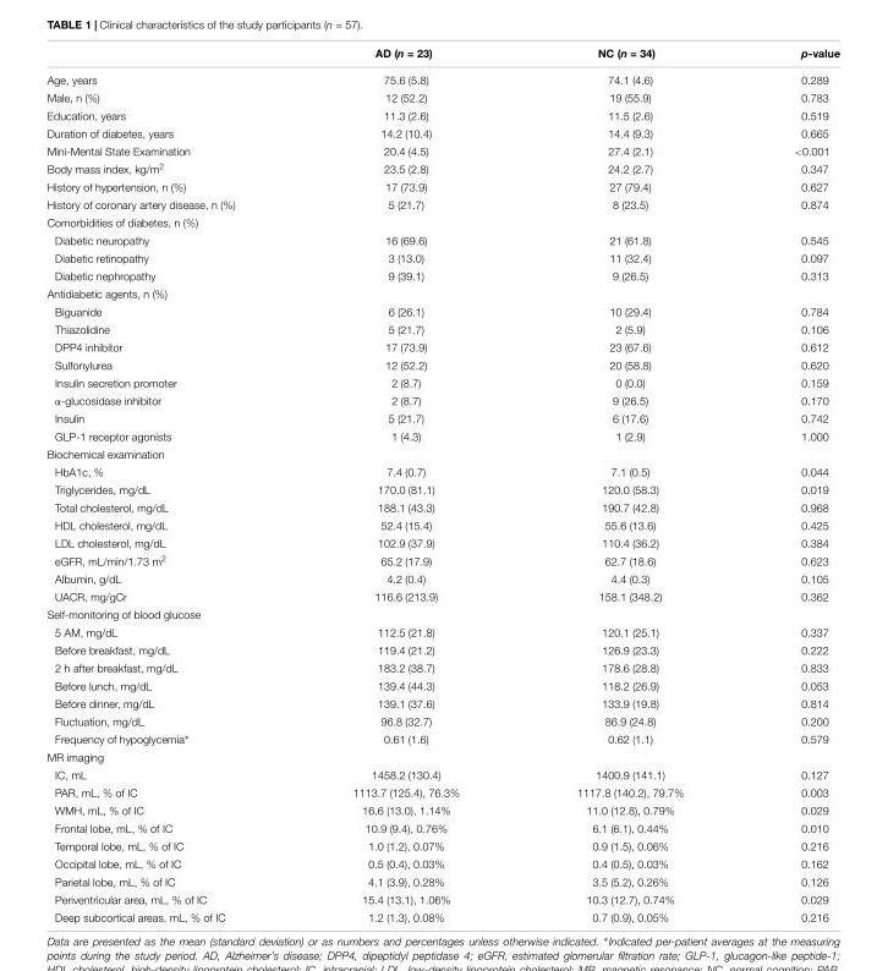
<table><thead><tr><td></td><td>AD (n = 23)</td><td>NC (n = 34)</td><td>p-value</td></tr></thead><tbody><tr><td>Age, years</td><td>75.6 (5.8)</td><td>74.1 (4.6)</td><td>0.289</td></tr><tr><td>Male, n (%)</td><td>12 (52.2)</td><td>19 (55.9)</td><td>0.783</td></tr><tr><td>Education, years</td><td>11.3 (2.6)</td><td>11.5 (2.6)</td><td>0.519</td></tr><tr><td>Duration of diabetes, years</td><td>14.2 (10.4)</td><td>14.4 (9.3)</td><td>0.665</td></tr><tr><td>Mini-Mental State Examination</td><td>20.4 (4.5)</td><td>27.4 (2.1)</td><td>&lt;0.001</td></tr><tr><td>Body mass index, kg/m<sup>2</sup></td><td>23.5 (2.8)</td><td>24.2 (2.7)</td><td>0.347</td></tr><tr><td>History of hypertension, n (%)</td><td>17 (73.9)</td><td>27 (79.4)</td><td>0.627</td></tr><tr><td>History of coronary artery disease, n (%)</td><td>5 (21.7)</td><td>8 (23.5)</td><td>0.874</td></tr><tr><td colspan="4">Comorbidities of diabetes, n (%)</td></tr><tr><td>Diabetic neuropathy</td><td>16 (69.6)</td><td>21 (61.8)</td><td>0.545</td></tr><tr><td>Diabetic retinopathy</td><td>3 (13.0)</td><td>11 (32.4)</td><td>0.097</td></tr><tr><td>Diabetic nephropathy</td><td>9 (39.1)</td><td>9 (26.5)</td><td>0.313</td></tr><tr><td colspan="4">Antidiabetic agents, n (%)</td></tr><tr><td>Biguanide</td><td>6 (26.1)</td><td>10 (29.4)</td><td>0.784</td></tr><tr><td>Thiazolidine</td><td>5 (21.7)</td><td>2 (5.9)</td><td>0.106</td></tr><tr><td>DPP4 inhibitor</td><td>17 (73.9)</td><td>23 (67.6)</td><td>0.612</td></tr><tr><td>Sulfonylurea</td><td>12 (52.2)</td><td>20 (58.8)</td><td>0.620</td></tr><tr><td>Insulin secretion promoter</td><td>2 (8.7)</td><td>0 (0.0)</td><td>0.159</td></tr><tr><td>α-glucosidase inhibitor</td><td>2 (8.7)</td><td>9 (26.5)</td><td>0.170</td></tr><tr><td>Insulin</td><td>5 (21.7)</td><td>6 (17.6)</td><td>0.742</td></tr><tr><td>GLP-1 receptor agonists</td><td>1 (4.3)</td><td>1 (2.9)</td><td>1.000</td></tr><tr><td colspan="4">Biochemical examination</td></tr><tr><td>HbA1c, %</td><td>7.4 (0.7)</td><td>7.1 (0.5)</td><td>0.044</td></tr><tr><td>Triglycerides, mg/dL</td><td>170.0 (81.1)</td><td>120.0 (58.3)</td><td>0.019</td></tr><tr><td>Total cholesterol, mg/dL</td><td>188.1 (43.3)</td><td>190.7 (42.8)</td><td>0.968</td></tr><tr><td>HDL cholesterol, mg/dL</td><td>52.4 (15.4)</td><td>55.6 (13.6)</td><td>0.425</td></tr><tr><td>LDL cholesterol, mg/dL</td><td>102.9 (37.9)</td><td>110.4 (36.2)</td><td>0.384</td></tr><tr><td>eGFR, mL/min/1.73 m<sup>2</sup></td><td>65.2 (17.9)</td><td>62.7 (18.6)</td><td>0.623</td></tr><tr><td>Albumin, g/dL</td><td>4.2 (0.4)</td><td>4.4 (0.3)</td><td>0.105</td></tr><tr><td>UACR, mg/gCr</td><td>116.6 (213.9)</td><td>158.1 (348.2)</td><td>0.362</td></tr><tr><td colspan="4">Self-monitoring of blood glucose</td></tr><tr><td>5 AM, mg/dL</td><td>112.5 (21.8)</td><td>120.1 (25.1)</td><td>0.337</td></tr><tr><td>Before breakfast, mg/dL</td><td>119.4 (21.2)</td><td>126.9 (23.3)</td><td>0.222</td></tr><tr><td>2 h after breakfast, mg/dL</td><td>183.2 (38.7)</td><td>178.6 (28.8)</td><td>0.833</td></tr><tr><td>Before lunch, mg/dL</td><td>139.4 (44.3)</td><td>118.2 (26.9)</td><td>0.053</td></tr><tr><td>Before dinner, mg/dL</td><td>139.1 (37.6)</td><td>133.9 (19.8)</td><td>0.814</td></tr><tr><td>Fluctuation, mg/dL</td><td>96.8 (32.7)</td><td>86.9 (24.8)</td><td>0.200</td></tr><tr><td>Frequency of hypoglycemia∗</td><td>0.61 (1.6)</td><td>0.62 (1.1)</td><td>0.579</td></tr><tr><td colspan="4">MR imaging</td></tr><tr><td>IC, mL</td><td>1458.2 (130.4)</td><td>1400.9 (141.1)</td><td>0.127</td></tr><tr><td>PAR, mL, % of IC</td><td>1113.7 (125.4), 76.3%</td><td>1117.8 (140.2), 79.7%</td><td>0.003</td></tr><tr><td>WMH, mL, % of IC</td><td>16.6 (13.0), 1.14%</td><td>11.0 (12.8), 0.79%</td><td>0.029</td></tr><tr><td>Frontal lobe, mL, % of IC</td><td>10.9 (9.4), 0.76%</td><td>6.1 (6.1), 0.44%</td><td>0.010</td></tr><tr><td>Temporal lobe, mL, % of IC</td><td>1.0 (1.2), 0.07%</td><td>0.9 (1.5), 0.06%</td><td>0.216</td></tr><tr><td>Occipital lobe, mL, % of IC</td><td>0.5 (0.4), 0.03%</td><td>0.4 (0.5), 0.03%</td><td>0.162</td></tr><tr><td>Parietal lobe, mL, % of IC</td><td>4.1 (3.9), 0.28%</td><td>3.5 (5.2), 0.26%</td><td>0.126</td></tr><tr><td>Periventricular area, mL, % of IC</td><td>15.4 (13.1), 1.06%</td><td>10.3 (12.7), 0.74%</td><td>0.029</td></tr><tr><td>Deep subcortical areas, mL, % of IC</td><td>1.2 (1.3), 0.08%</td><td>0.7 (0.9), 0.05%</td><td>0.216</td></tr></tbody></table>